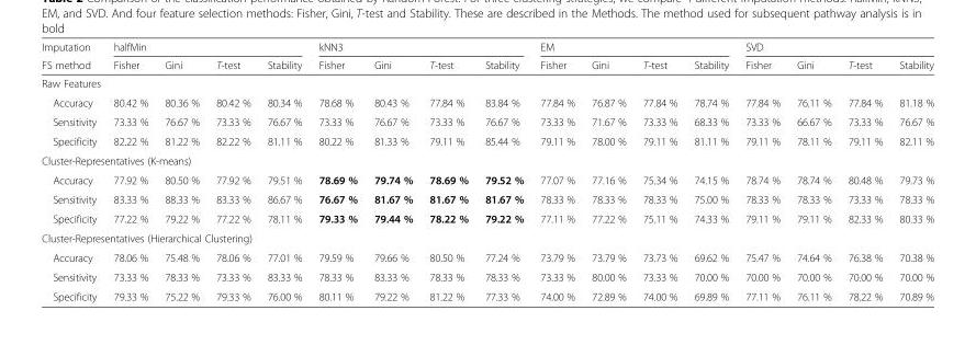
<table><thead><tr><td rowspan="2">Imputation FS method</td><td colspan="4">halfMin</td><td colspan="4">kNN3</td><td colspan="4">EM</td><td colspan="4">SVD</td></tr><tr><td>Fisher</td><td>Gini</td><td>T-test</td><td>Stability</td><td>Fisher</td><td>Gini</td><td>T-test</td><td>Stability</td><td>Fisher</td><td>Gini</td><td>T-test</td><td>Stability</td><td>Fisher</td><td>Gini</td><td>T-test</td><td>Stability</td></tr></thead><tbody><tr><td colspan="17">Raw Features</td></tr><tr><td>Accuracy</td><td>80.42 %</td><td>80.36 %</td><td>80.42 %</td><td>80.34 %</td><td>78.68 %</td><td>80.43 %</td><td>77.84 %</td><td>83.84 %</td><td>77.84 %</td><td>76.87 %</td><td>77.84 %</td><td>78.74 %</td><td>77.84 %</td><td>76.11 %</td><td>77.84 %</td><td>81.18 %</td></tr><tr><td>Sensitivity</td><td>73.33 %</td><td>76.67 %</td><td>73.33 %</td><td>76.67 %</td><td>73.33 %</td><td>76.67 %</td><td>73.33 %</td><td>76.67 %</td><td>73.33 %</td><td>71.67 %</td><td>73.33 %</td><td>68.33 %</td><td>73.33 %</td><td>66.67 %</td><td>73.33 %</td><td>76.67 %</td></tr><tr><td>Specificity</td><td>82.22 %</td><td>81.22 %</td><td>82.22 %</td><td>81.11 %</td><td>80.22 %</td><td>81.33 %</td><td>79.11 %</td><td>85.44 %</td><td>79.11 %</td><td>78.00 %</td><td>79.11 %</td><td>81.11 %</td><td>79.11 %</td><td>78.11 %</td><td>79.11 %</td><td>82.11 %</td></tr><tr><td colspan="17">Cluster-Representatives (K-means)</td></tr><tr><td>Accuracy</td><td>77.92 %</td><td>80.50 %</td><td>77.92 %</td><td>79.51 %</td><td>78.69 %</td><td>79.74 %</td><td>78.69 %</td><td>79.52 %</td><td>77.07 %</td><td>77.16 %</td><td>75.34 %</td><td>74.15 %</td><td>78.74 %</td><td>78.74 %</td><td>80.48 %</td><td>79.73 %</td></tr><tr><td>Sensitivity</td><td>83.33 %</td><td>88.33 %</td><td>83.33 %</td><td>86.67 %</td><td>76.67 %</td><td>81.67 %</td><td>81.67 %</td><td>81.67 %</td><td>78.33 %</td><td>78.33 %</td><td>78.33 %</td><td>75.00 %</td><td>78.33 %</td><td>78.33 %</td><td>73.33 %</td><td>78.33 %</td></tr><tr><td>Specificity</td><td>77.22 %</td><td>79.22 %</td><td>77.22 %</td><td>78.11 %</td><td>79.33 %</td><td>79.44 %</td><td>78.22 %</td><td>79.22 %</td><td>77.11 %</td><td>77.22 %</td><td>75.11 %</td><td>74.33 %</td><td>79.11 %</td><td>79.11 %</td><td>82.33 %</td><td>80.33 %</td></tr><tr><td colspan="17">Cluster-Representatives (Hierarchical Clustering)</td></tr><tr><td>Accuracy</td><td>78.06 %</td><td>75.48 %</td><td>78.06 %</td><td>77.01 %</td><td>79.59 %</td><td>79.66 %</td><td>80.50 %</td><td>77.24 %</td><td>73.79 %</td><td>73.79 %</td><td>73.73 %</td><td>69.62 %</td><td>75.47 %</td><td>74.64 %</td><td>76.38 %</td><td>70.38 %</td></tr><tr><td>Sensitivity</td><td>73.33 %</td><td>78.33 %</td><td>73.33 %</td><td>83.33 %</td><td>78.33 %</td><td>83.33 %</td><td>78.33 %</td><td>78.33 %</td><td>73.33 %</td><td>80.00 %</td><td>73.33 %</td><td>70.00 %</td><td>70.00 %</td><td>70.00 %</td><td>70.00 %</td><td>70.00 %</td></tr><tr><td>Specificity</td><td>79.33 %</td><td>75.22 %</td><td>79.33 %</td><td>76.00 %</td><td>80.11 %</td><td>79.22 %</td><td>81.22 %</td><td>77.33 %</td><td>74.00 %</td><td>72.89 %</td><td>74.00 %</td><td>69.89 %</td><td>77.11 %</td><td>76.11 %</td><td>78.22 %</td><td>70.89 %</td></tr></tbody></table>